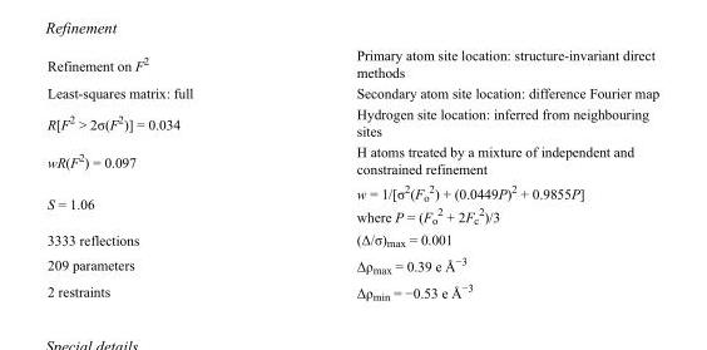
<table><tbody><tr><td>Refinement on F<sup>2</sup></td><td>Primary atom site location: structure-invariant direct methods</td></tr><tr><td>Least-squares matrix: full</td><td>Secondary atom site location: difference Fourier map</td></tr><tr><td>R[F<sup>2</sup> &gt; 2σ(F<sup>2</sup>)] = 0.034</td><td>Hydrogen site location: inferred from neighbouring sites</td></tr><tr><td>wR(F<sup>2</sup>) = 0.097</td><td>H atoms treated by a mixture of independent and constrained refinement</td></tr><tr><td>S = 1.06</td><td>w = 1/[σ<sup>2</sup>(F<sub>o</sub> <sup>2</sup>) + (0.0449P)<sup>2</sup> + 0.9855P] where P = (F<sub>o</sub> <sup>2</sup> + 2F<sub>c</sub> <sup>2</sup>)/3</td></tr><tr><td>3333 reflections</td><td>(Δ/σ)<sub>max</sub> = 0.001</td></tr><tr><td>209 parameters</td><td>Δρ<sub>max</sub> = 0.39 e Å<sup>−3</sup></td></tr><tr><td>2 restraints</td><td>Δρ<sub>min</sub> = −0.53 e Å<sup>−3</sup></td></tr></tbody></table>